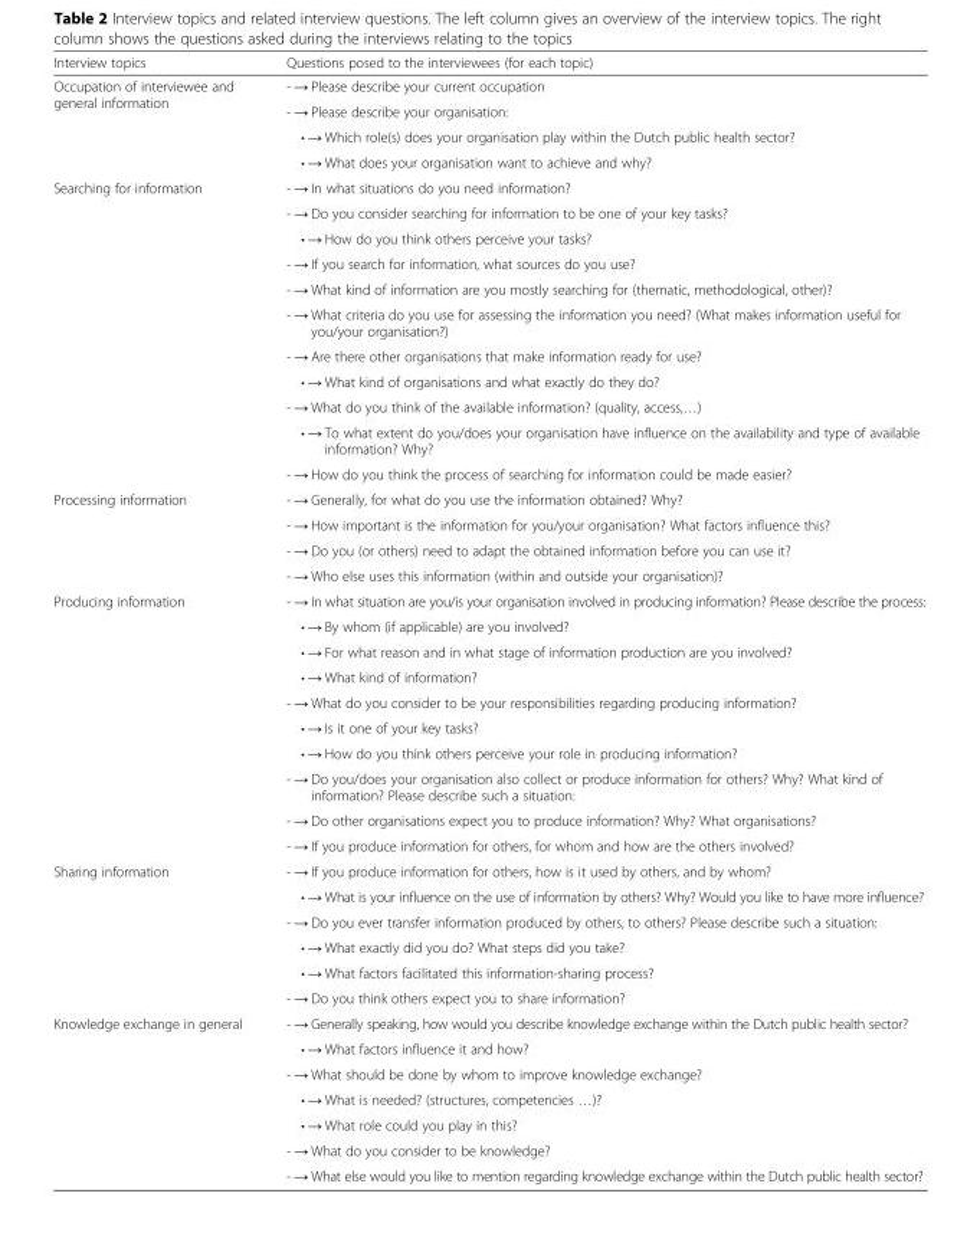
<table><thead><tr><td>Interview topics</td><td>Questions posed to the interviewees (for each topic)</td></tr></thead><tbody><tr><td rowspan="4">Occupation of interviewee and general information</td><td>- → Please describe your current occupation</td></tr><tr><td>- → Please describe your organisation:</td></tr><tr><td>• → Which role(s) does your organisation play within the Dutch public health sector?</td></tr><tr><td>• → What does your organisation want to achieve and why?</td></tr><tr><td rowspan="11">Searching for information</td><td>- → In what situations do you need information?</td></tr><tr><td>- → Do you consider searching for information to be one of your key tasks?</td></tr><tr><td>• → How do you think others perceive your tasks?</td></tr><tr><td>- → If you search for information, what sources do you use?</td></tr><tr><td>- → What kind of information are you mostly searching for (thematic, methodological, other)?</td></tr><tr><td>- → What criteria do you use for assessing the information you need? (What makes information useful for you/your organisation?)</td></tr><tr><td>- → Are there other organisations that make information ready for use?</td></tr><tr><td>• → What kind of organisations and what exactly do they do?</td></tr><tr><td>- → What do you think of the available information? (quality, access,…)</td></tr><tr><td>• → To what extent do you/does your organisation have influence on the availability and type of available information? Why?</td></tr><tr><td>- → How do you think the process of searching for information could be made easier?</td></tr><tr><td rowspan="4">Processing information</td><td>- → Generally, for what do you use the information obtained? Why?</td></tr><tr><td>- → How important is the information for you/your organisation? What factors influence this?</td></tr><tr><td>- → Do you (or others) need to adapt the obtained information before you can use it?</td></tr><tr><td>- → Who else uses this information (within and outside your organisation)?</td></tr><tr><td rowspan="10">Producing information</td><td>- → In what situation are you/is your organisation involved in producing information? Please describe the process:</td></tr><tr><td>• → By whom (if applicable) are you involved?</td></tr><tr><td>• → For what reason and in what stage of information production are you involved?</td></tr><tr><td>• → What kind of information?</td></tr><tr><td>- → What do you consider to be your responsibilities regarding producing information?</td></tr><tr><td>• → Is it one of your key tasks?</td></tr><tr><td>• → How do you think others perceive your role in producing information?</td></tr><tr><td>- → Do you/does your organisation also collect or produce information for others? Why? What kind of information? Please describe such a situation:</td></tr><tr><td>- → Do other organisations expect you to produce information? Why? What organisations?</td></tr><tr><td>- → If you produce information for others, for whom and how are the others involved?</td></tr><tr><td rowspan="6">Sharing information</td><td>- → If you produce information for others, how is it used by others, and by whom?</td></tr><tr><td>• → What is your influence on the use of information by others? Why? Would you like to have more influence?</td></tr><tr><td>- → Do you ever transfer information produced by others, to others? Please describe such a situation:</td></tr><tr><td>• → What exactly did you do? What steps did you take?</td></tr><tr><td>• → What factors facilitated this information-sharing process?</td></tr><tr><td>- → Do you think others expect you to share information?</td></tr><tr><td rowspan="7">Knowledge exchange in general</td><td>- → Generally speaking, how would you describe knowledge exchange within the Dutch public health sector?</td></tr><tr><td>• → What factors influence it and how?</td></tr><tr><td>- → What should be done by whom to improve knowledge exchange?</td></tr><tr><td>• → What is needed? (structures, competencies …)?</td></tr><tr><td>• → What role could you play in this?</td></tr><tr><td>- → What do you consider to be knowledge?</td></tr><tr><td>- → What else would you like to mention regarding knowledge exchange within the Dutch public health sector?</td></tr></tbody></table>